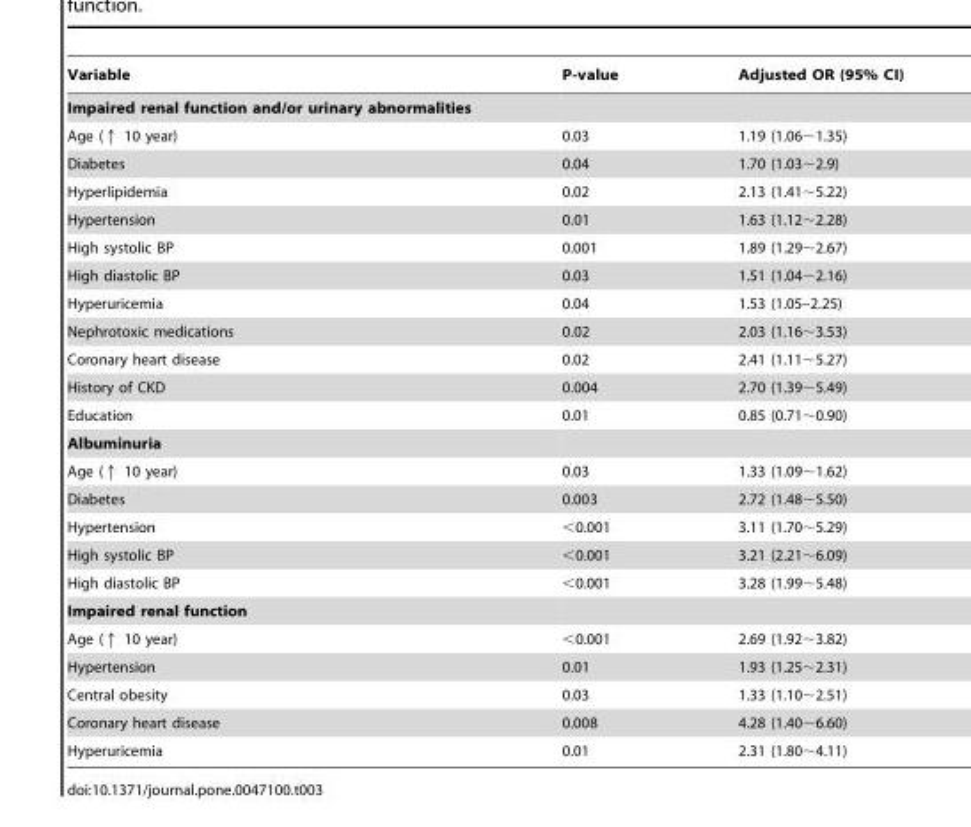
<table><thead><tr><td>Variable</td><td>P-value</td><td>Adjusted OR (95% CI)</td></tr></thead><tbody><tr><td colspan="3">Impaired renal function and/or urinary abnormalities</td></tr><tr><td>Age (↑ 10 year)</td><td>0.03</td><td>1.19 (1.06∼1.35)</td></tr><tr><td>Diabetes</td><td>0.04</td><td>1.70 (1.03∼2.9)</td></tr><tr><td>Hyperlipidemia</td><td>0.02</td><td>2.13 (1.41∼5.22)</td></tr><tr><td>Hypertension</td><td>0.01</td><td>1.63 (1.12∼2.28)</td></tr><tr><td>High systolic BP</td><td>0.001</td><td>1.89 (1.29∼2.67)</td></tr><tr><td>High diastolic BP</td><td>0.03</td><td>1.51 (1.04∼2.16)</td></tr><tr><td>Hyperuricemia</td><td>0.04</td><td>1.53 (1.05–2.25)</td></tr><tr><td>Nephrotoxic medications</td><td>0.02</td><td>2.03 (1.16∼3.53)</td></tr><tr><td>Coronary heart disease</td><td>0.02</td><td>2.41 (1.11∼5.27)</td></tr><tr><td>History of CKD</td><td>0.004</td><td>2.70 (1.39∼5.49)</td></tr><tr><td>Education</td><td>0.01</td><td>0.85 (0.71∼0.90)</td></tr><tr><td colspan="3">Albuminuria</td></tr><tr><td>Age (↑ 10 year)</td><td>0.03</td><td>1.33 (1.09∼1.62)</td></tr><tr><td>Diabetes</td><td>0.003</td><td>2.72 (1.48∼5.50)</td></tr><tr><td>Hypertension</td><td>&lt;0.001</td><td>3.11 (1.70∼5.29)</td></tr><tr><td>High systolic BP</td><td>&lt;0.001</td><td>3.21 (2.21∼6.09)</td></tr><tr><td>High diastolic BP</td><td>&lt;0.001</td><td>3.28 (1.99∼5.48)</td></tr><tr><td colspan="3">Impaired renal function</td></tr><tr><td>Age (↑ 10 year)</td><td>&lt;0.001</td><td>2.69 (1.92∼3.82)</td></tr><tr><td>Hypertension</td><td>0.01</td><td>1.93 (1.25∼2.31)</td></tr><tr><td>Central obesity</td><td>0.03</td><td>1.33 (1.10∼2.51)</td></tr><tr><td>Coronary heart disease</td><td>0.008</td><td>4.28 (1.40∼6.60)</td></tr><tr><td>Hyperuricemia</td><td>0.01</td><td>2.31 (1.80∼4.11)</td></tr></tbody></table>